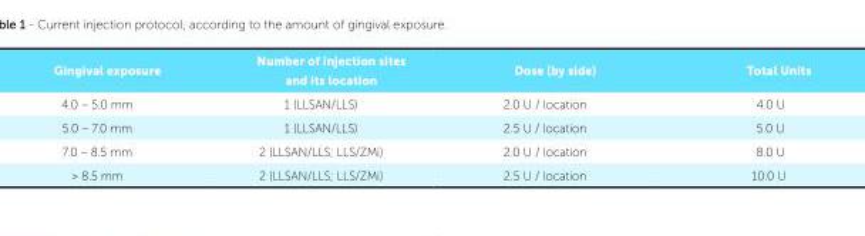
<table><tbody><tr><td>Gingival exposure</td><td>Number of injection sites and its location</td><td>Dose (by side)</td><td>Total Units</td></tr><tr><td>4.0 – 5.0 mm</td><td>1 (LLSAN/LLS)</td><td>2.0 U / location</td><td>4.0 U</td></tr><tr><td>5.0 – 7.0 mm</td><td>1 (LLSAN/LLS)</td><td>2.5 U / location</td><td>5.0 U</td></tr><tr><td>7.0 – 8.5 mm</td><td>2 (LLSAN/LLS; LLS/ZMi)</td><td>2.0 U / location</td><td>8.0 U</td></tr><tr><td>&gt; 8.5 mm</td><td>2 (LLSAN/LLS; LLS/ZMi)</td><td>2.5 U / location</td><td>10.0 U</td></tr></tbody></table>